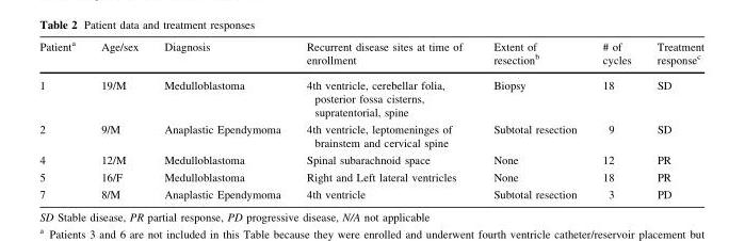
<table><thead><tr><td>Patient<sup>a</sup></td><td>Age/sex</td><td>Diagnosis</td><td>Recurrent disease sites at time of enrollment</td><td>Extent of resection<sup>b</sup></td><td># of cycles</td><td>Treatment response<sup>c</sup></td></tr></thead><tbody><tr><td>1</td><td>19/M</td><td>Medulloblastoma</td><td>4th ventricle, cerebellar folia, posterior fossa cisterns, supratentorial, spine</td><td>Biopsy</td><td>18</td><td>SD</td></tr><tr><td>2</td><td>9/M</td><td>Anaplastic Ependymoma</td><td>4th ventricle, leptomeninges of brainstem and cervical spine</td><td>Subtotal resection</td><td>9</td><td>SD</td></tr><tr><td>4</td><td>12/M</td><td>Medulloblastoma</td><td>Spinal subarachnoid space</td><td>None</td><td>12</td><td>PR</td></tr><tr><td>5</td><td>16/F</td><td>Medulloblastoma</td><td>Right and Left lateral ventricles</td><td>None</td><td>18</td><td>PR</td></tr><tr><td>7</td><td>8/M</td><td>Anaplastic Ependymoma</td><td>4th ventricle</td><td>Subtotal resection</td><td>3</td><td>PD</td></tr></tbody></table>